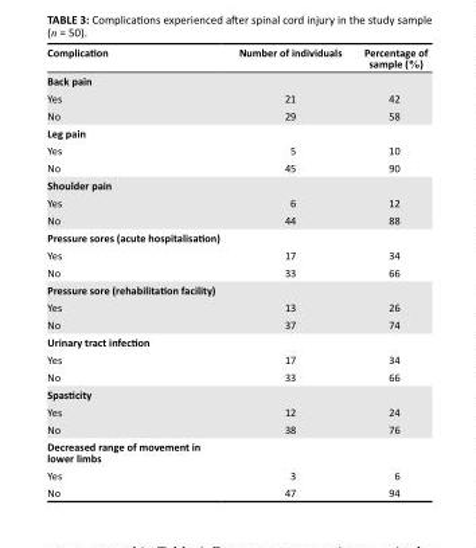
<table><thead><tr><td>Complication</td><td>Number of individuals</td><td>Percentage of sample (%)</td></tr></thead><tbody><tr><td colspan="3">Back pain</td></tr><tr><td>Yes</td><td>21</td><td>42</td></tr><tr><td>No</td><td>29</td><td>58</td></tr><tr><td colspan="3">Leg pain</td></tr><tr><td>Yes</td><td>5</td><td>10</td></tr><tr><td>No</td><td>45</td><td>90</td></tr><tr><td colspan="3">Shoulder pain</td></tr><tr><td>Yes</td><td>6</td><td>12</td></tr><tr><td>No</td><td>44</td><td>88</td></tr><tr><td colspan="3">Pressure sores (acute hospitalisation)</td></tr><tr><td>Yes</td><td>17</td><td>34</td></tr><tr><td>No</td><td>33</td><td>66</td></tr><tr><td colspan="3">Pressure sore (rehabilitation facility)</td></tr><tr><td>Yes</td><td>13</td><td>26</td></tr><tr><td>No</td><td>37</td><td>74</td></tr><tr><td colspan="3">Urinary tract infection</td></tr><tr><td>Yes</td><td>17</td><td>34</td></tr><tr><td>No</td><td>33</td><td>66</td></tr><tr><td colspan="3">Spasticity</td></tr><tr><td>Yes</td><td>12</td><td>24</td></tr><tr><td>No</td><td>38</td><td>76</td></tr><tr><td colspan="3">Decreased range of movement in lower limbs</td></tr><tr><td>Yes</td><td>3</td><td>6</td></tr><tr><td>No</td><td>47</td><td>94</td></tr></tbody></table>